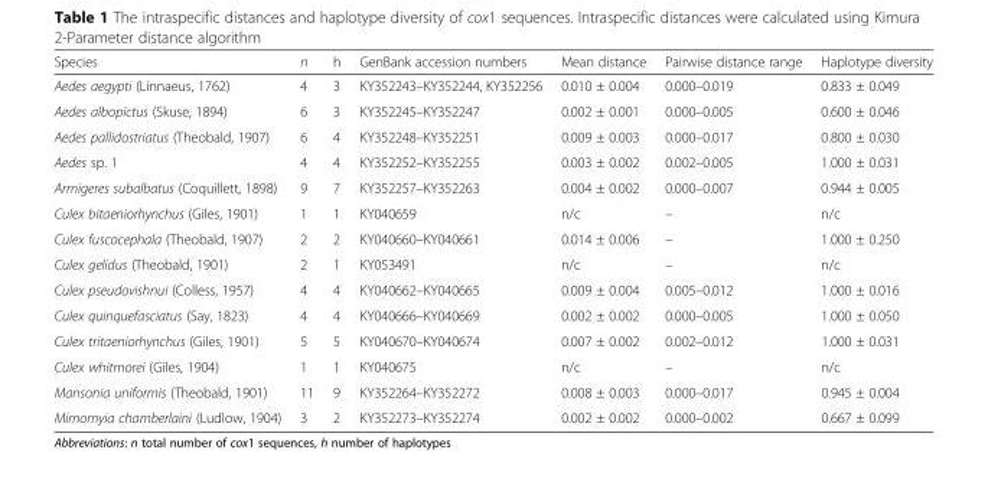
<table><thead><tr><td>Species</td><td>n</td><td>h</td><td>GenBank accession numbers</td><td>Mean distance</td><td>Pairwise distance range</td><td>Haplotype diversity</td></tr></thead><tbody><tr><td>Aedes aegypti (Linnaeus, 1762)</td><td>4</td><td>3</td><td>KY352243–KY352244, KY352256</td><td>0.010 ± 0.004</td><td>0.000–0.019</td><td>0.833 ± 0.049</td></tr><tr><td>Aedes albopictus (Skuse, 1894)</td><td>6</td><td>3</td><td>KY352245–KY352247</td><td>0.002 ± 0.001</td><td>0.000–0.005</td><td>0.600 ± 0.046</td></tr><tr><td>Aedes pallidostriatus (Theobald, 1907)</td><td>6</td><td>4</td><td>KY352248–KY352251</td><td>0.009 ± 0.003</td><td>0.000–0.017</td><td>0.800 ± 0.030</td></tr><tr><td>Aedes sp. 1</td><td>4</td><td>4</td><td>KY352252–KY352255</td><td>0.003 ± 0.002</td><td>0.002–0.005</td><td>1.000 ± 0.031</td></tr><tr><td>Armigeres subalbatus (Coquillett, 1898)</td><td>9</td><td>7</td><td>KY352257–KY352263</td><td>0.004 ± 0.002</td><td>0.000–0.007</td><td>0.944 ± 0.005</td></tr><tr><td>Culex bitaeniorhynchus (Giles, 1901)</td><td>1</td><td>1</td><td>KY040659</td><td>n/c</td><td>–</td><td>n/c</td></tr><tr><td>Culex fuscocephala (Theobald, 1907)</td><td>2</td><td>2</td><td>KY040660–KY040661</td><td>0.014 ± 0.006</td><td>–</td><td>1.000 ± 0.250</td></tr><tr><td>Culex gelidus (Theobald, 1901)</td><td>2</td><td>1</td><td>KY053491</td><td>n/c</td><td>–</td><td>n/c</td></tr><tr><td>Culex pseudovishnui (Colless, 1957)</td><td>4</td><td>4</td><td>KY040662–KY040665</td><td>0.009 ± 0.004</td><td>0.005–0.012</td><td>1.000 ± 0.016</td></tr><tr><td>Culex quinquefasciatus (Say, 1823)</td><td>4</td><td>4</td><td>KY040666–KY040669</td><td>0.002 ± 0.002</td><td>0.000–0.005</td><td>1.000 ± 0.050</td></tr><tr><td>Culex tritaeniorhynchus (Giles, 1901)</td><td>5</td><td>5</td><td>KY040670–KY040674</td><td>0.007 ± 0.002</td><td>0.002–0.012</td><td>1.000 ± 0.031</td></tr><tr><td>Culex whitmorei (Giles, 1904)</td><td>1</td><td>1</td><td>KY040675</td><td>n/c</td><td>–</td><td>n/c</td></tr><tr><td>Mansonia uniformis (Theobald, 1901)</td><td>11</td><td>9</td><td>KY352264–KY352272</td><td>0.008 ± 0.003</td><td>0.000–0.017</td><td>0.945 ± 0.004</td></tr><tr><td>Mimomyia chamberlaini (Ludlow, 1904)</td><td>3</td><td>2</td><td>KY352273–KY352274</td><td>0.002 ± 0.002</td><td>0.000–0.002</td><td>0.667 ± 0.099</td></tr></tbody></table>